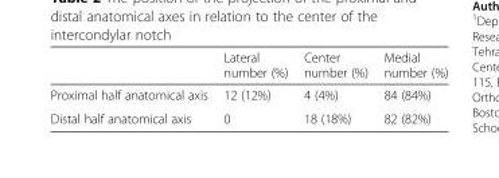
<table><thead><tr><td></td><td>Lateral number (%)</td><td>Center number (%)</td><td>Medial number (%)</td></tr></thead><tbody><tr><td>Proximal half anatomical axis</td><td>12 (12%)</td><td>4 (4%)</td><td>84 (84%)</td></tr><tr><td>Distal half anatomical axis</td><td>0</td><td>18 (18%)</td><td>82 (82%)</td></tr></tbody></table>